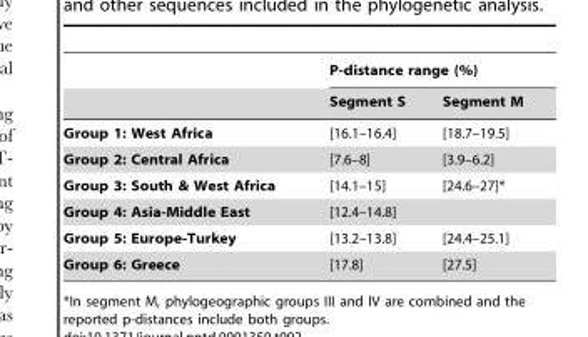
<table><thead><tr><td rowspan="2"></td><td colspan="2">P-distance range (%)</td></tr><tr><td>Segment S</td><td>Segment M</td></tr></thead><tbody><tr><td>Group 1: West Africa</td><td>[16.1–16.4]</td><td>[18.7–19.5]</td></tr><tr><td>Group 2: Central Africa</td><td>[7.6–8]</td><td>[3.9–6.2]</td></tr><tr><td>Group 3: South &amp; West Africa</td><td>[14.1–15]</td><td>[24.6–27]*</td></tr><tr><td>Group 4: Asia-Middle East</td><td>[12.4–14.8]</td><td></td></tr><tr><td>Group 5: Europe-Turkey</td><td>[13.2–13.8]</td><td>[24.4–25.1]</td></tr><tr><td>Group 6: Greece</td><td>[17.8]</td><td>[27.5]</td></tr></tbody></table>